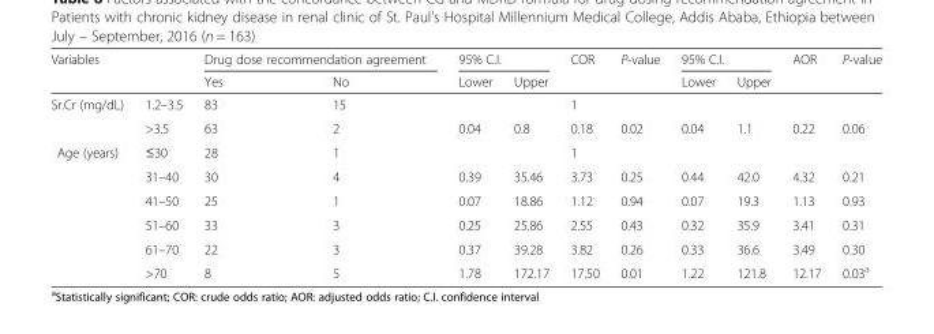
<table><thead><tr><td rowspan="2">Variables</td><td rowspan="2"></td><td colspan="2">Drug dose recommendation agreement</td><td colspan="2">95% C.I.</td><td rowspan="2">COR</td><td rowspan="2">P-value</td><td colspan="2">95% C.I.</td><td rowspan="2">AOR</td><td rowspan="2">P-value</td></tr><tr><td>Yes</td><td>No</td><td>Lower</td><td>Upper</td><td>Lower</td><td>Upper</td></tr></thead><tbody><tr><td rowspan="2">Sr.Cr (mg/dL)</td><td>1.2–3.5</td><td>83</td><td>15</td><td></td><td></td><td>1</td><td></td><td></td><td></td><td></td><td></td></tr><tr><td>&gt;3.5</td><td>63</td><td>2</td><td>0.04</td><td>0.8</td><td>0.18</td><td>0.02</td><td>0.04</td><td>1.1</td><td>0.22</td><td>0.06</td></tr><tr><td rowspan="6">Age (years)</td><td>≤30</td><td>28</td><td>1</td><td></td><td></td><td>1</td><td></td><td></td><td></td><td></td><td></td></tr><tr><td>31–40</td><td>30</td><td>4</td><td>0.39</td><td>35.46</td><td>3.73</td><td>0.25</td><td>0.44</td><td>42.0</td><td>4.32</td><td>0.21</td></tr><tr><td>41–50</td><td>25</td><td>1</td><td>0.07</td><td>18.86</td><td>1.12</td><td>0.94</td><td>0.07</td><td>19.3</td><td>1.13</td><td>0.93</td></tr><tr><td>51–60</td><td>33</td><td>3</td><td>0.25</td><td>25.86</td><td>2.55</td><td>0.43</td><td>0.32</td><td>35.9</td><td>3.41</td><td>0.31</td></tr><tr><td>61–70</td><td>22</td><td>3</td><td>0.37</td><td>39.28</td><td>3.82</td><td>0.26</td><td>0.33</td><td>36.6</td><td>3.49</td><td>0.30</td></tr><tr><td>&gt;70</td><td>8</td><td>5</td><td>1.78</td><td>172.17</td><td>17.50</td><td>0.01</td><td>1.22</td><td>121.8</td><td>12.17</td><td>0.03<sup>a</sup></td></tr></tbody></table>